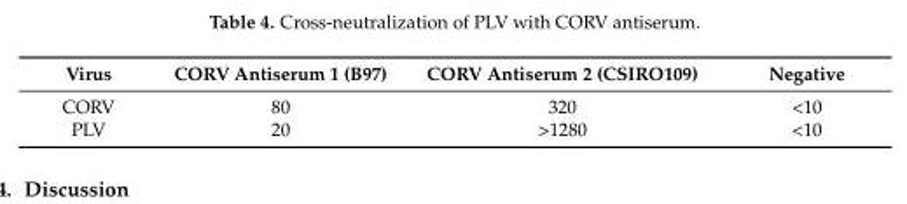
<table><thead><tr><td>Virus</td><td>CORV Antiserum 1 (B97)</td><td>CORV Antiserum 2 (CSIRO109)</td><td>Negative</td></tr></thead><tbody><tr><td>CORV</td><td>80</td><td>320</td><td>&lt;10</td></tr><tr><td>PLV</td><td>20</td><td>&gt;1280</td><td>&lt;10</td></tr></tbody></table>